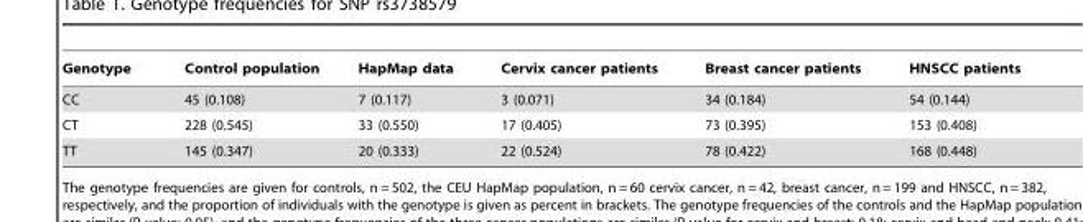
<table><thead><tr><td>Genotype</td><td>Control population</td><td>HapMap data</td><td>Cervix cancer patients</td><td>Breast cancer patients</td><td>HNSCC patients</td></tr></thead><tbody><tr><td>CC</td><td>45 (0.108)</td><td>7 (0.117)</td><td>3 (0.071)</td><td>34 (0.184)</td><td>54 (0.144)</td></tr><tr><td>CT</td><td>228 (0.545)</td><td>33 (0.550)</td><td>17 (0.405)</td><td>73 (0.395)</td><td>153 (0.408)</td></tr><tr><td>TT</td><td>145 (0.347)</td><td>20 (0.333)</td><td>22 (0.524)</td><td>78 (0.422)</td><td>168 (0.448)</td></tr></tbody></table>